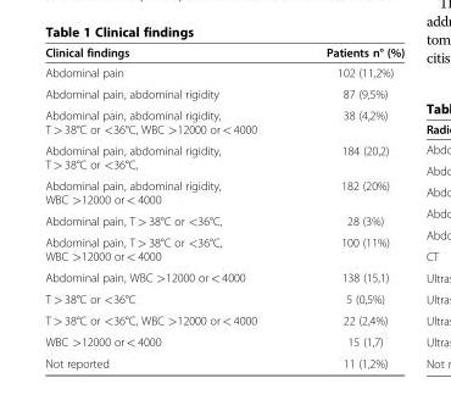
<table><thead><tr><td>Clinical findings</td><td>Patients n° (%)</td></tr></thead><tbody><tr><td>Abdominal pain</td><td>102 (11,2%)</td></tr><tr><td>Abdominal pain, abdominal rigidity</td><td>87 (9,5%)</td></tr><tr><td>Abdominal pain, abdominal rigidity, T &gt; 38°C or &lt;36°C, WBC &gt;12000 or &lt; 4000</td><td>38 (4,2%)</td></tr><tr><td>Abdominal pain, abdominal rigidity, T &gt; 38°C or &lt;36°C,</td><td>184 (20,2)</td></tr><tr><td>Abdominal pain, abdominal rigidity, WBC &gt;12000 or &lt; 4000</td><td>182 (20%)</td></tr><tr><td>Abdominal pain, T &gt; 38°C or &lt;36°C,</td><td>28 (3%)</td></tr><tr><td>Abdominal pain, T &gt; 38°C or &lt;36°C, WBC &gt;12000 or &lt; 4000</td><td>100 (11%)</td></tr><tr><td>Abdominal pain, WBC &gt;12000 or &lt; 4000</td><td>138 (15,1)</td></tr><tr><td>T &gt; 38°C or &lt;36°C</td><td>5 (0,5%)</td></tr><tr><td>T &gt; 38°C or &lt;36°C, WBC &gt;12000 or &lt; 4000</td><td>22 (2,4%)</td></tr><tr><td>WBC &gt;12000 or &lt; 4000</td><td>15 (1,7)</td></tr><tr><td>Not reported</td><td>11 (1,2%)</td></tr></tbody></table>